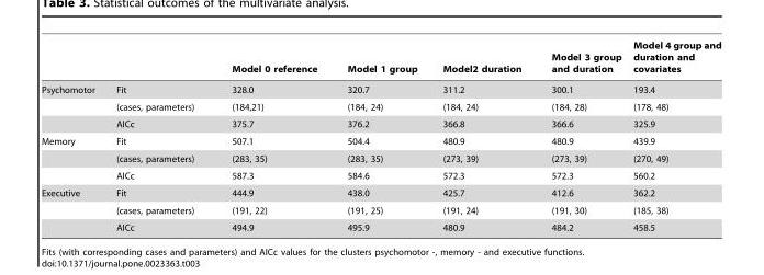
<table><thead><tr><td></td><td></td><td>Model 0 reference</td><td>Model 1 group</td><td>Model2 duration</td><td>Model 3 group and duration</td><td>Model 4 group and duration and covariates</td></tr></thead><tbody><tr><td rowspan="3">Psychomotor</td><td>Fit</td><td>328.0</td><td>320.7</td><td>311.2</td><td>300.1</td><td>193.4</td></tr><tr><td>(cases, parameters)</td><td>(184,21)</td><td>(184, 24)</td><td>(184, 24)</td><td>(184, 28)</td><td>(178, 48)</td></tr><tr><td>AICc</td><td>375.7</td><td>376.2</td><td>366.8</td><td>366.6</td><td>325.9</td></tr><tr><td rowspan="3">Memory</td><td>Fit</td><td>507.1</td><td>504.4</td><td>480.9</td><td>480.9</td><td>439.9</td></tr><tr><td>(cases, parameters)</td><td>(283, 35)</td><td>(283, 35)</td><td>(273, 39)</td><td>(273, 39)</td><td>(270, 49)</td></tr><tr><td>AICc</td><td>587.3</td><td>584.6</td><td>572.3</td><td>572.3</td><td>560.2</td></tr><tr><td rowspan="3">Executive</td><td>Fit</td><td>444.9</td><td>438.0</td><td>425.7</td><td>412.6</td><td>362.2</td></tr><tr><td>(cases, parameters)</td><td>(191, 22)</td><td>(191, 25)</td><td>(191, 24)</td><td>(191, 30)</td><td>(185, 38)</td></tr><tr><td>AICc</td><td>494.9</td><td>495.9</td><td>480.9</td><td>484.2</td><td>458.5</td></tr></tbody></table>